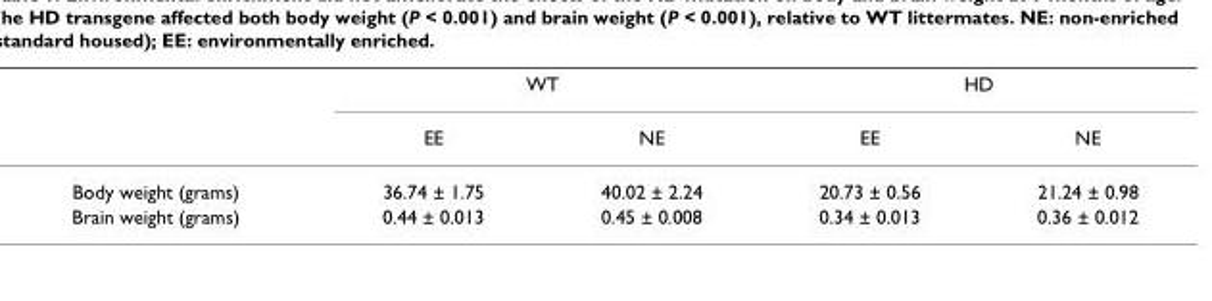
<table><thead><tr><td rowspan="2"></td><td colspan="2">WT</td><td colspan="2">HD</td></tr><tr><td>EE</td><td>NE</td><td>EE</td><td>NE</td></tr></thead><tbody><tr><td>Body weight (grams)</td><td>36.74 ± 1.75</td><td>40.02 ± 2.24</td><td>20.73 ± 0.56</td><td>21.24 ± 0.98</td></tr><tr><td>Brain weight (grams)</td><td>0.44 ± 0.013</td><td>0.45 ± 0.008</td><td>0.34 ± 0.013</td><td>0.36 ± 0.012</td></tr></tbody></table>